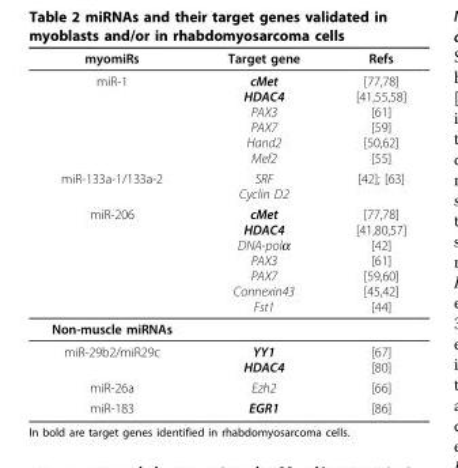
<table><thead><tr><td>myomiRs</td><td>Target gene</td><td>Refs</td></tr></thead><tbody><tr><td>miR-1</td><td>cMet HDAC4 PAX3 PAX7 Hand2 Mef2</td><td>[77,78] [41,55,58] [61] [59] [50,62] [55]</td></tr><tr><td>miR-133a-1/133a-2</td><td>SRF Cyclin D2</td><td>[42]; [63]</td></tr><tr><td>miR-206</td><td>cMet HDAC4 DNA-polα PAX3 PAX7 Connexin43 Fst1</td><td>[77,78] [41,80,57] [42] [61] [59,60] [45,42] [44]</td></tr><tr><td colspan="3">Non-muscle miRNAs</td></tr><tr><td>miR-29b2/miR29c</td><td>YY1 HDAC4</td><td>[67] [80]</td></tr><tr><td>miR-26a</td><td>Ezh2</td><td>[66]</td></tr><tr><td>miR-183</td><td>EGR1</td><td>[86]</td></tr></tbody></table>